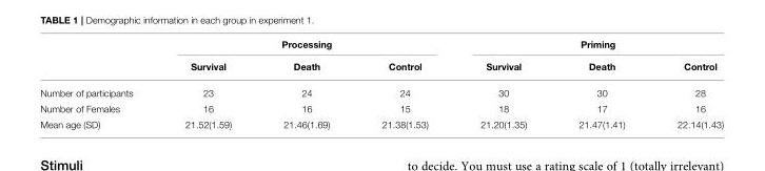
<table><thead><tr><td rowspan="2"></td><td colspan="3">Processing</td><td colspan="3">Priming</td></tr><tr><td>Survival</td><td>Death</td><td>Control</td><td>Survival</td><td>Death</td><td>Control</td></tr></thead><tbody><tr><td>Number of participants</td><td>23</td><td>24</td><td>24</td><td>30</td><td>30</td><td>28</td></tr><tr><td>Number of Females</td><td>16</td><td>16</td><td>15</td><td>18</td><td>17</td><td>16</td></tr><tr><td>Mean age (SD)</td><td>21.52(1.59)</td><td>21.46(1.69)</td><td>21.38(1.53)</td><td>21.20(1.35)</td><td>21.47(1.41)</td><td>22.14(1.43)</td></tr></tbody></table>